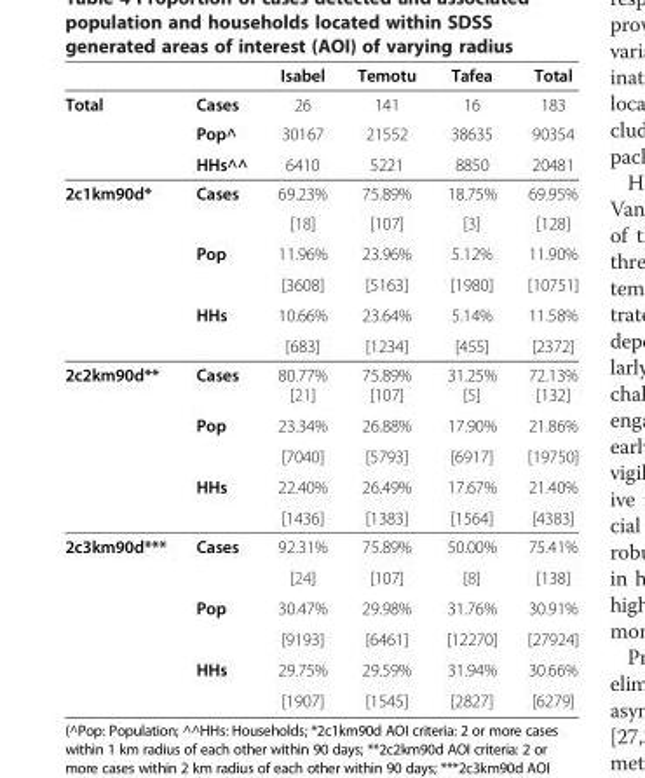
<table><thead><tr><td></td><td></td><td>Isabel</td><td>Temotu</td><td>Tafea</td><td>Total</td></tr></thead><tbody><tr><td rowspan="3">Total</td><td>Cases</td><td>26</td><td>141</td><td>16</td><td>183</td></tr><tr><td>Pop^</td><td>30167</td><td>21552</td><td>38635</td><td>90354</td></tr><tr><td>HHs^^</td><td>6410</td><td>5221</td><td>8850</td><td>20481</td></tr><tr><td rowspan="6">2c1km90d*</td><td>Cases</td><td>69.23%</td><td>75.89%</td><td>18.75%</td><td>69.95%</td></tr><tr><td></td><td>[18]</td><td>[107]</td><td>[3]</td><td>[128]</td></tr><tr><td>Pop</td><td>11.96%</td><td>23.96%</td><td>5.12%</td><td>11.90%</td></tr><tr><td></td><td>[3608]</td><td>[5163]</td><td>[1980]</td><td>[10751]</td></tr><tr><td>HHs</td><td>10.66%</td><td>23.64%</td><td>5.14%</td><td>11.58%</td></tr><tr><td></td><td>[683]</td><td>[1234]</td><td>[455]</td><td>[2372]</td></tr><tr><td rowspan="6">2c2km90d**</td><td>Cases</td><td>80.77%</td><td>75.89%</td><td>31.25%</td><td>72.13%</td></tr><tr><td></td><td>[21]</td><td>[107]</td><td>[5]</td><td>[132]</td></tr><tr><td>Pop</td><td>23.34%</td><td>26.88%</td><td>17.90%</td><td>21.86%</td></tr><tr><td></td><td>[7040]</td><td>[5793]</td><td>[6917]</td><td>[19750]</td></tr><tr><td>HHs</td><td>22.40%</td><td>26.49%</td><td>17.67%</td><td>21.40%</td></tr><tr><td></td><td>[1436]</td><td>[1383]</td><td>[1564]</td><td>[4383]</td></tr><tr><td rowspan="6">2c3km90d***</td><td>Cases</td><td>92.31%</td><td>75.89%</td><td>50.00%</td><td>75.41%</td></tr><tr><td></td><td>[24]</td><td>[107]</td><td>[8]</td><td>[138]</td></tr><tr><td>Pop</td><td>30.47%</td><td>29.98%</td><td>31.76%</td><td>30.91%</td></tr><tr><td></td><td>[9193]</td><td>[6461]</td><td>[12270]</td><td>[27924]</td></tr><tr><td>HHs</td><td>29.75%</td><td>29.59%</td><td>31.94%</td><td>30.66%</td></tr><tr><td></td><td>[1907]</td><td>[1545]</td><td>[2827]</td><td>[6279]</td></tr></tbody></table>